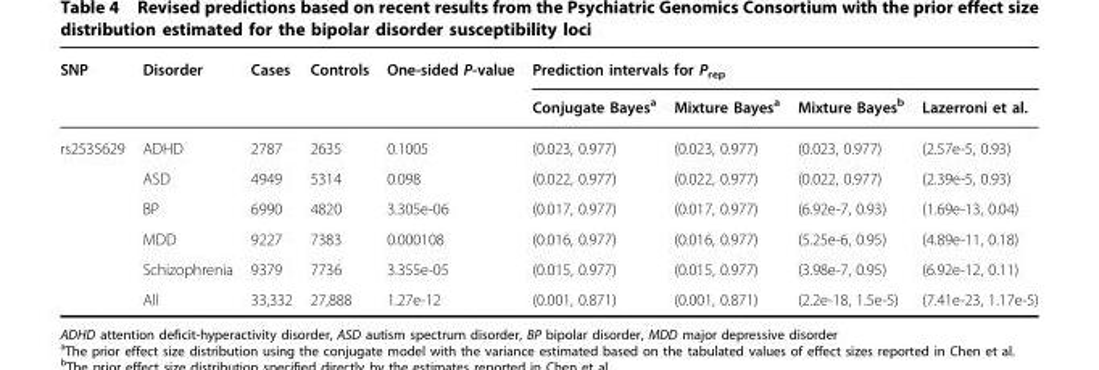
<table><thead><tr><td rowspan="2">SNP</td><td rowspan="2">Disorder</td><td rowspan="2">Cases</td><td rowspan="2">Controls</td><td rowspan="2">One-sided P-value</td><td colspan="4">Prediction intervals for P<sub>rep</sub></td></tr><tr><td>Conjugate Bayes<sup>a</sup></td><td>Mixture Bayes<sup>a</sup></td><td>Mixture Bayes<sup>b</sup></td><td>Lazerroni et al.</td></tr></thead><tbody><tr><td rowspan="6">rs2535629</td><td>ADHD</td><td>2787</td><td>2635</td><td>0.1005</td><td>(0.023, 0.977)</td><td>(0.023, 0.977)</td><td>(0.023, 0.977)</td><td>(2.57e-5, 0.93)</td></tr><tr><td>ASD</td><td>4949</td><td>5314</td><td>0.098</td><td>(0.022, 0.977)</td><td>(0.022, 0.977)</td><td>(0.022, 0.977)</td><td>(2.39e-5, 0.93)</td></tr><tr><td>BP</td><td>6990</td><td>4820</td><td>3.305e-06</td><td>(0.017, 0.977)</td><td>(0.017, 0.977)</td><td>(6.92e-7, 0.93)</td><td>(1.69e-13, 0.04)</td></tr><tr><td>MDD</td><td>9227</td><td>7383</td><td>0.000108</td><td>(0.016, 0.977)</td><td>(0.016, 0.977)</td><td>(5.25e-6, 0.95)</td><td>(4.89e-11, 0.18)</td></tr><tr><td>Schizophrenia</td><td>9379</td><td>7736</td><td>3.355e-05</td><td>(0.015, 0.977)</td><td>(0.015, 0.977)</td><td>(3.98e-7, 0.95)</td><td>(6.92e-12, 0.11)</td></tr><tr><td>All</td><td>33,332</td><td>27,888</td><td>1.27e-12</td><td>(0.001, 0.871)</td><td>(0.001, 0.871)</td><td>(2.2e-18, 1.5e-5)</td><td>(7.41e-23, 1.17e-5)</td></tr></tbody></table>